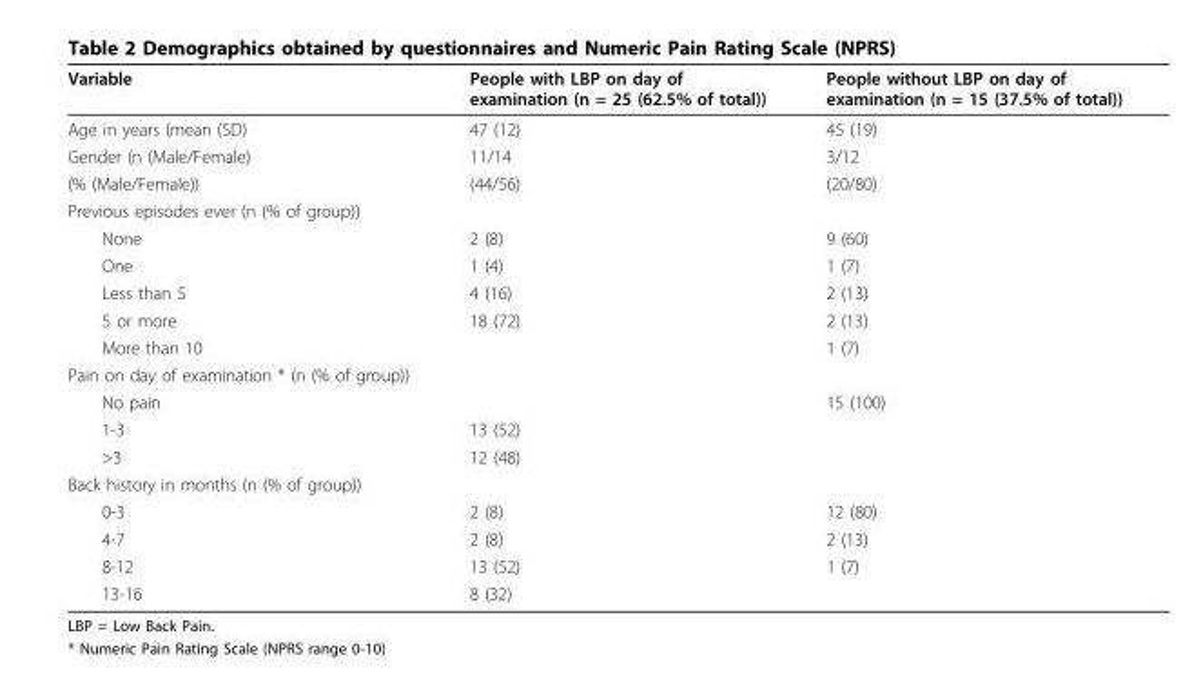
<table><thead><tr><td>Variable</td><td>People with LBP on day of examination (n = 25 (62.5% of total))</td><td>People without LBP on day of examination (n = 15 (37.5% of total))</td></tr></thead><tbody><tr><td>Age in years (mean (SD)</td><td>47 (12)</td><td>45 (19)</td></tr><tr><td>Gender (n (Male/Female)</td><td>11/14</td><td>3/12</td></tr><tr><td>(% (Male/Female))</td><td>(44/56)</td><td>(20/80)</td></tr><tr><td colspan="3">Previous episodes ever (n (% of group))</td></tr><tr><td>None</td><td>2 (8)</td><td>9 (60)</td></tr><tr><td>One</td><td>1 (4)</td><td>1 (7)</td></tr><tr><td>Less than 5</td><td>4 (16)</td><td>2 (13)</td></tr><tr><td>5 or more</td><td>18 (72)</td><td>2 (13)</td></tr><tr><td>More than 10</td><td></td><td>1 (7)</td></tr><tr><td colspan="3">Pain on day of examination * (n (% of group))</td></tr><tr><td>No pain</td><td></td><td>15 (100)</td></tr><tr><td>1-3</td><td>13 (52)</td><td></td></tr><tr><td>&gt;3</td><td>12 (48)</td><td></td></tr><tr><td colspan="3">Back history in months (n (% of group))</td></tr><tr><td>0-3</td><td>2 (8)</td><td>12 (80)</td></tr><tr><td>4-7</td><td>2 (8)</td><td>2 (13)</td></tr><tr><td>8-12</td><td>13 (52)</td><td>1 (7)</td></tr><tr><td>13-16</td><td>8 (32)</td><td></td></tr></tbody></table>